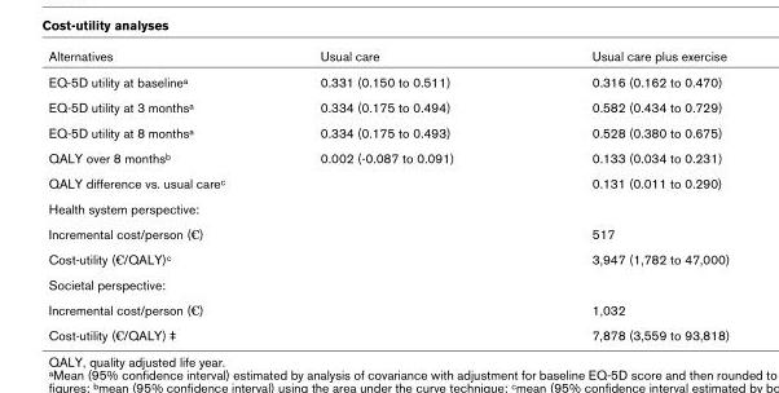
<table><thead><tr><td>Alternatives</td><td>Usual care</td><td>Usual care plus exercise</td></tr></thead><tbody><tr><td>EQ-5D utility at baseline<sup>a</sup></td><td>0.331 (0.150 to 0.511)</td><td>0.316 (0.162 to 0.470)</td></tr><tr><td>EQ-5D utility at 3 months<sup>a</sup></td><td>0.334 (0.175 to 0.494)</td><td>0.582 (0.434 to 0.729)</td></tr><tr><td>EQ-5D utility at 8 months<sup>a</sup></td><td>0.334 (0.175 to 0.493)</td><td>0.528 (0.380 to 0.675)</td></tr><tr><td>QALY over 8 months<sup>b</sup></td><td>0.002 (-0.087 to 0.091)</td><td>0.133 (0.034 to 0.231)</td></tr><tr><td>QALY difference vs. usual care<sup>c</sup></td><td></td><td>0.131 (0.011 to 0.290)</td></tr><tr><td colspan="3">Health system perspective:</td></tr><tr><td>Incremental cost/person (€)</td><td></td><td>517</td></tr><tr><td>Cost-utility (€/QALY)<sup>c</sup></td><td></td><td>3,947 (1,782 to 47,000)</td></tr><tr><td colspan="3">Societal perspective:</td></tr><tr><td>Incremental cost/person (€)</td><td></td><td>1,032</td></tr><tr><td>Cost-utility (€/QALY) ‡</td><td></td><td>7,878 (3,559 to 93,818)</td></tr></tbody></table>